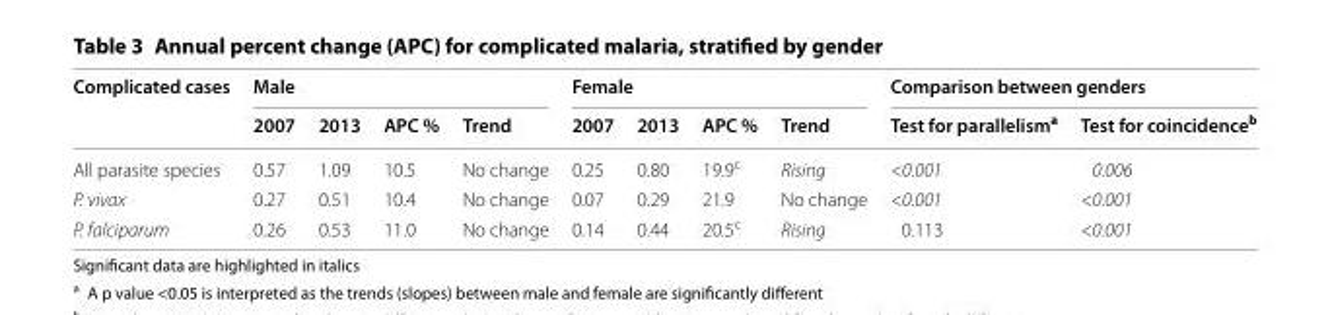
<table><thead><tr><td rowspan="2">Complicated cases</td><td colspan="4">Male</td><td colspan="4">Female</td><td colspan="2">Comparison between genders</td></tr><tr><td>2007</td><td>2013</td><td>APC %</td><td>Trend</td><td>2007</td><td>2013</td><td>APC %</td><td>Trend</td><td>Test for parallelism<sup>a</sup></td><td>Test for coincidence<sup>b</sup></td></tr></thead><tbody><tr><td>All parasite species</td><td>0.57</td><td>1.09</td><td>10.5</td><td>No change</td><td>0.25</td><td>0.80</td><td>19.9<sup>c</sup></td><td>Rising</td><td>&lt;0.001</td><td>0.006</td></tr><tr><td>P. vivax</td><td>0.27</td><td>0.51</td><td>10.4</td><td>No change</td><td>0.07</td><td>0.29</td><td>21.9</td><td>No change</td><td>&lt;0.001</td><td>&lt;0.001</td></tr><tr><td>P. falciparum</td><td>0.26</td><td>0.53</td><td>11.0</td><td>No change</td><td>0.14</td><td>0.44</td><td>20.5<sup>c</sup></td><td>Rising</td><td>0.113</td><td>&lt;0.001</td></tr></tbody></table>